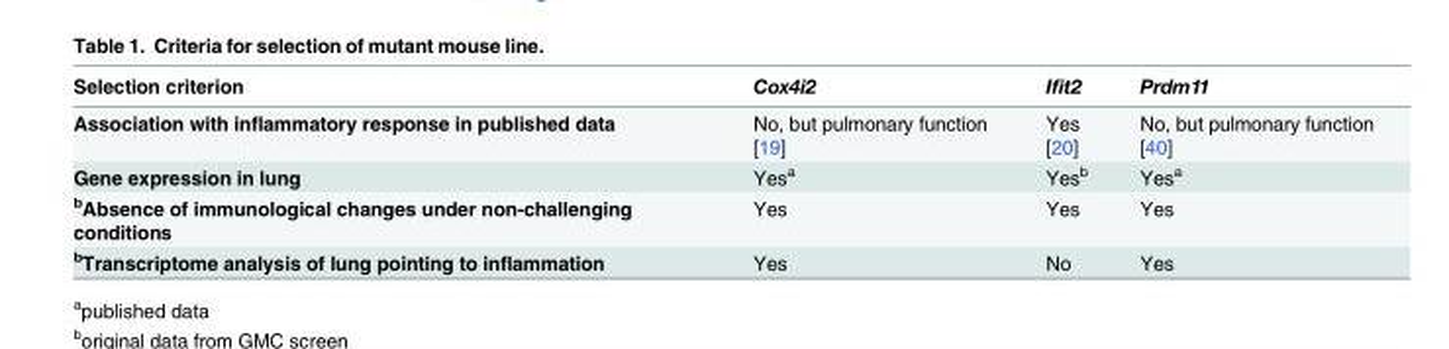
<table><thead><tr><td>Selection criterion</td><td>Cox4i2</td><td>Ifit2</td><td>Prdm11</td></tr></thead><tbody><tr><td>Association with inflammatory response in published data</td><td>No, but pulmonary function [19]</td><td>Yes [20]</td><td>No, but pulmonary function [40]</td></tr><tr><td>Gene expression in lung</td><td>Yes<sup>a</sup></td><td>Yes<sup>b</sup></td><td>Yes<sup>a</sup></td></tr><tr><td><sup>b</sup>Absence of immunological changes under non-challenging conditions</td><td>Yes</td><td>Yes</td><td>Yes</td></tr><tr><td><sup>b</sup>Transcriptome analysis of lung pointing to inflammation</td><td>Yes</td><td>No</td><td>Yes</td></tr></tbody></table>